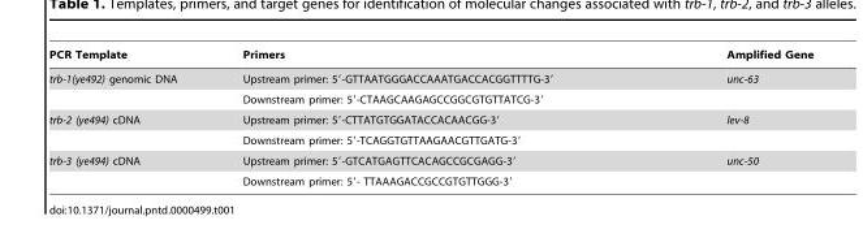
<table><thead><tr><td>PCR Template</td><td>Primers</td><td>Amplified Gene</td></tr></thead><tbody><tr><td rowspan="2">trb-1(ye492) genomic DNA</td><td>Upstream primer: 5′-GTTAATGGGACCAAATGACCACGGTTTTG-3′</td><td>unc-63</td></tr><tr><td>Downstream primer: 5′-CTAAGCAAGAGCCGGCGTGTTATCG-3′</td><td></td></tr><tr><td rowspan="2">trb-2 (ye494) cDNA</td><td>Upstream primer: 5′-CTTATGTGGATACCACAACGG-3′</td><td>lev-8</td></tr><tr><td>Downstream primer: 5′-TCAGGTGTTAAGAACGTTGATG-3′</td><td></td></tr><tr><td rowspan="2">trb-3 (ye494) cDNA</td><td>Upstream primer: 5′-GTCATGAGTTCACAGCCGCGAGG-3′</td><td>unc-50</td></tr><tr><td>Downstream primer: 5′- TTAAAGACCGCCGTGTTGGG-3′</td><td></td></tr></tbody></table>